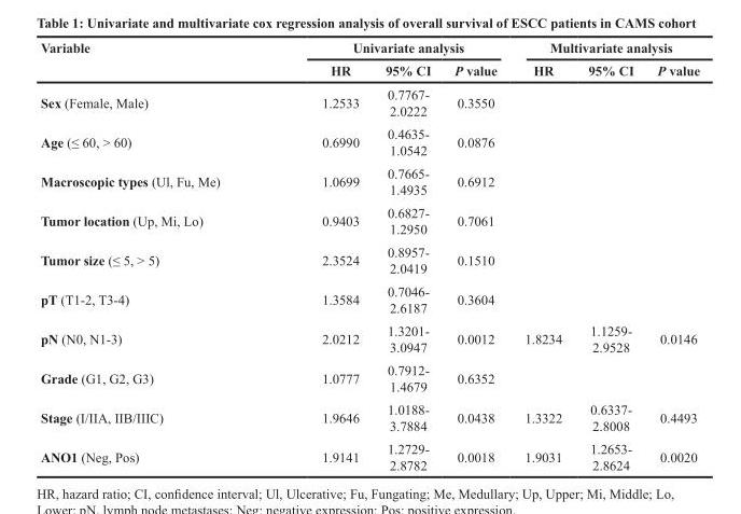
<table><thead><tr><td rowspan="2">Variable</td><td colspan="3">Univariate analysis</td><td colspan="3">Multivariate analysis</td></tr><tr><td>HR</td><td>95% CI</td><td>P value</td><td>HR</td><td>95% CI</td><td>P value</td></tr></thead><tbody><tr><td>Sex (Female, Male)</td><td>1.2533</td><td>0.7767- 2.0222</td><td>0.3550</td><td colspan="3"></td></tr><tr><td>Age (≤ 60, &gt; 60)</td><td>0.6990</td><td>0.4635- 1.0542</td><td>0.0876</td><td colspan="3"></td></tr><tr><td>Macroscopic types (Ul, Fu, Me)</td><td>1.0699</td><td>0.7665- 1.4935</td><td>0.6912</td><td colspan="3"></td></tr><tr><td>Tumor location (Up, Mi, Lo)</td><td>0.9403</td><td>0.6827- 1.2950</td><td>0.7061</td><td colspan="3"></td></tr><tr><td>Tumor size (≤ 5, &gt; 5)</td><td>2.3524</td><td>0.8957- 2.0419</td><td>0.1510</td><td colspan="3"></td></tr><tr><td>pT (T1-2, T3-4)</td><td>1.3584</td><td>0.7046- 2.6187</td><td>0.3604</td><td colspan="3"></td></tr><tr><td>pN (N0, N1-3)</td><td>2.0212</td><td>1.3201- 3.0947</td><td>0.0012</td><td>1.8234</td><td>1.1259- 2.9528</td><td>0.0146</td></tr><tr><td>Grade (G1, G2, G3)</td><td>1.0777</td><td>0.7912- 1.4679</td><td>0.6352</td><td colspan="3"></td></tr><tr><td>Stage (I/IIA, IIB/IIIC)</td><td>1.9646</td><td>1.0188- 3.7884</td><td>0.0438</td><td>1.3322</td><td>0.6337- 2.8008</td><td>0.4493</td></tr><tr><td>ANO1 (Neg, Pos)</td><td>1.9141</td><td>1.2729- 2.8782</td><td>0.0018</td><td>1.9031</td><td>1.2653- 2.8624</td><td>0.0020</td></tr></tbody></table>